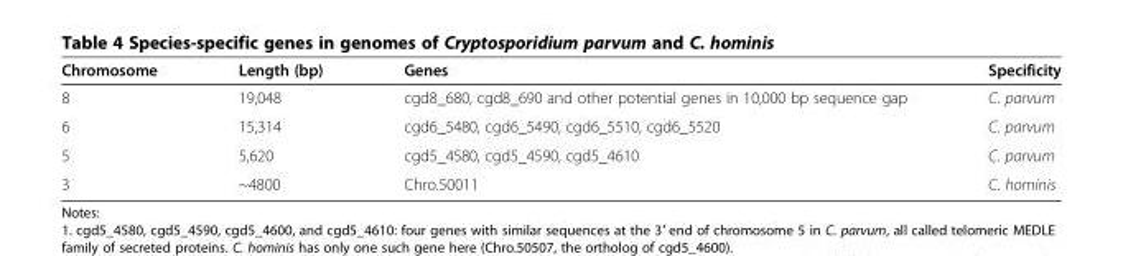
<table><thead><tr><td>Chromosome</td><td>Length (bp)</td><td>Genes</td><td>Specificity</td></tr></thead><tbody><tr><td>8</td><td>19,048</td><td>cgd8_680, cgd8_690 and other potential genes in 10,000 bp sequence gap</td><td>C. parvum</td></tr><tr><td>6</td><td>15,314</td><td>cgd6_5480, cgd6_5490, cgd6_5510, cgd6_5520</td><td>C. parvum</td></tr><tr><td>5</td><td>5,620</td><td>cgd5_4580, cgd5_4590, cgd5_4610</td><td>C. parvum</td></tr><tr><td>3</td><td>~4800</td><td>Chro.50011</td><td>C. hominis</td></tr></tbody></table>